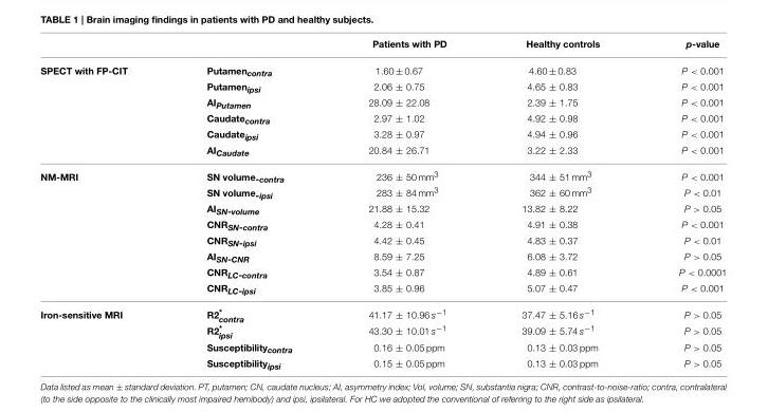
<table><thead><tr><td></td><td></td><td>Patients with PD</td><td>Healthy controls</td><td>p-value</td></tr></thead><tbody><tr><td rowspan="6">SPECT with FP-CIT</td><td>Putamen<sub>contra</sub></td><td>1.60 ± 0.67</td><td>4.60 ± 0.83</td><td>P &lt; 0.001</td></tr><tr><td>Putamen<sub>ipsi</sub></td><td>2.06 ± 0.75</td><td>4.65 ± 0.83</td><td>P &lt; 0.001</td></tr><tr><td>AI<sub>Putamen</sub></td><td>28.09 ± 22.08</td><td>2.39 ± 1.75</td><td>P &lt; 0.001</td></tr><tr><td>Caudate<sub>contra</sub></td><td>2.97 ± 1.02</td><td>4.92 ± 0.98</td><td>P &lt; 0.001</td></tr><tr><td>Caudate<sub>ipsi</sub></td><td>3.28 ± 0.97</td><td>4.94 ± 0.96</td><td>P &lt; 0.001</td></tr><tr><td>AI<sub>Caudate</sub></td><td>20.84 ± 26.71</td><td>3.22 ± 2.33</td><td>P &lt; 0.001</td></tr><tr><td rowspan="8">NM-MRI</td><td>SN volume<sub>-contra</sub></td><td>236 ± 50 mm<sup>3</sup></td><td>344 ± 51 mm<sup>3</sup></td><td>P &lt; 0.001</td></tr><tr><td>SN volume<sub>-ipsi</sub></td><td>283 ± 84 mm<sup>3</sup></td><td>362 ± 60 mm<sup>3</sup></td><td>P &lt; 0.01</td></tr><tr><td>AI<sub>SN-volume</sub></td><td>21.88 ± 15.32</td><td>13.82 ± 8.22</td><td>P &gt; 0.05</td></tr><tr><td>CNR<sub>SN-contra</sub></td><td>4.28 ± 0.41</td><td>4.91 ± 0.38</td><td>P &lt; 0.001</td></tr><tr><td>CNR<sub>SN-ipsi</sub></td><td>4.42 ± 0.45</td><td>4.83 ± 0.37</td><td>P &lt; 0.01</td></tr><tr><td>AI<sub>SN-CNR</sub></td><td>8.59 ± 7.25</td><td>6.08 ± 3.72</td><td>P &gt; 0.05</td></tr><tr><td>CNR<sub>LC-contra</sub></td><td>3.54 ± 0.87</td><td>4.89 ± 0.61</td><td>P &lt; 0.0001</td></tr><tr><td>CNR<sub>LC-ipsi</sub></td><td>3.85 ± 0.96</td><td>5.07 ± 0.47</td><td>P &lt; 0.001</td></tr><tr><td rowspan="4">Iron-sensitive MRI</td><td>R2* <sub>contra</sub></td><td>41.17 ± 10.96 s−1</td><td>37.47 ± 5.16 s−1</td><td>P &gt; 0.05</td></tr><tr><td>R2* <sub>ipsi</sub></td><td>43.30 ± 10.01 s−1</td><td>39.09 ± 5.74 s−1</td><td>P &gt; 0.05</td></tr><tr><td>Susceptibility<sub>contra</sub></td><td>0.16 ± 0.05 ppm</td><td>0.13 ± 0.03 ppm</td><td>P &gt; 0.05</td></tr><tr><td>Susceptibility<sub>ipsi</sub></td><td>0.15 ± 0.05 ppm</td><td>0.13 ± 0.03 ppm</td><td>P &gt; 0.05</td></tr></tbody></table>